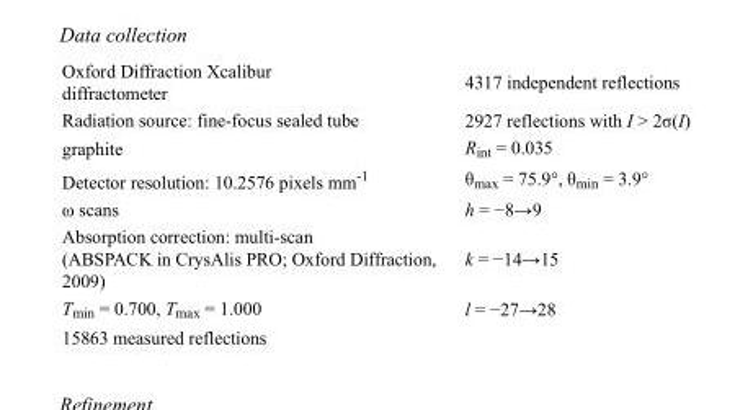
<table><tbody><tr><td>Oxford Diffraction Xcalibur diffractometer</td><td>4317 independent reflections</td></tr><tr><td>Radiation source: fine-focus sealed tube</td><td>2927 reflections with I &gt; 2σ(I)</td></tr><tr><td>graphite</td><td>R<sub>int</sub> = 0.035</td></tr><tr><td>Detector resolution: 10.2576 pixels mm<sup>-1</sup></td><td>θ<sub>max</sub> = 75.9°, θ<sub>min</sub> = 3.9°</td></tr><tr><td>ω scans</td><td>h = −8→9</td></tr><tr><td>Absorption correction: multi-scan (ABSPACK in CrysAlis PRO; Oxford Diffraction, 2009)</td><td>k = −14→15</td></tr><tr><td>T<sub>min</sub> = 0.700, T<sub>max</sub> = 1.000</td><td>l = −27→28</td></tr><tr><td>15863 measured reflections</td><td></td></tr></tbody></table>